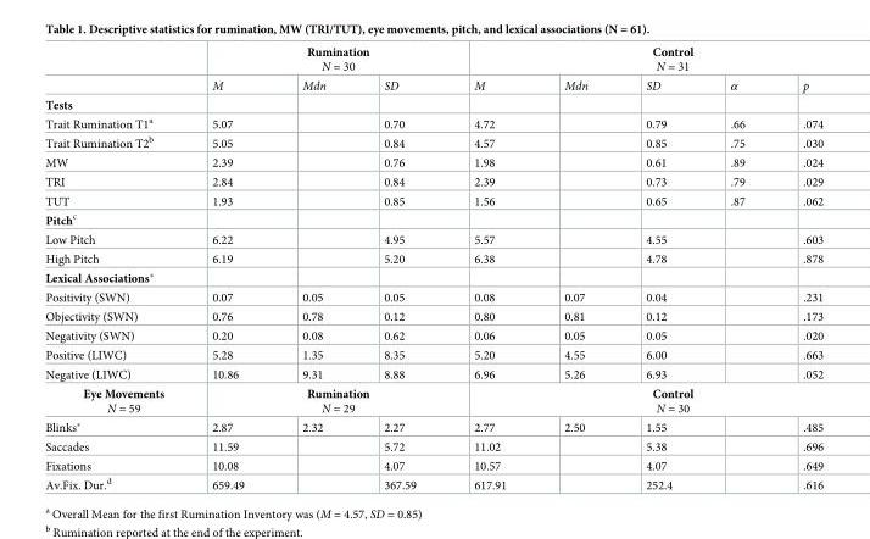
<table><thead><tr><td rowspan="2"></td><td colspan="3">Rumination N = 30</td><td colspan="5">Control N = 31</td></tr><tr><td>M</td><td>Mdn</td><td>SD</td><td>M</td><td>Mdn</td><td>SD</td><td>α</td><td>p</td></tr></thead><tbody><tr><td colspan="9">Tests</td></tr><tr><td>Trait Rumination T1<sup>a</sup></td><td>5.07</td><td></td><td>0.70</td><td>4.72</td><td></td><td>0.79</td><td>.66</td><td>.074</td></tr><tr><td>Trait Rumination T2<sup>b</sup></td><td>5.05</td><td></td><td>0.84</td><td>4.57</td><td></td><td>0.85</td><td>.75</td><td>.030</td></tr><tr><td>MW</td><td>2.39</td><td></td><td>0.76</td><td>1.98</td><td></td><td>0.61</td><td>.89</td><td>.024</td></tr><tr><td>TRI</td><td>2.84</td><td></td><td>0.84</td><td>2.39</td><td></td><td>0.73</td><td>.79</td><td>.029</td></tr><tr><td>TUT</td><td>1.93</td><td></td><td>0.85</td><td>1.56</td><td></td><td>0.65</td><td>.87</td><td>.062</td></tr><tr><td colspan="9">Pitch<sup>c</sup></td></tr><tr><td>Low Pitch</td><td>6.22</td><td></td><td>4.95</td><td>5.57</td><td></td><td>4.55</td><td></td><td>.603</td></tr><tr><td>High Pitch</td><td>6.19</td><td></td><td>5.20</td><td>6.38</td><td></td><td>4.78</td><td></td><td>.878</td></tr><tr><td colspan="9">Lexical Associations*</td></tr><tr><td>Positivity (SWN)</td><td>0.07</td><td>0.05</td><td>0.05</td><td>0.08</td><td>0.07</td><td>0.04</td><td></td><td>.231</td></tr><tr><td>Objectivity (SWN)</td><td>0.76</td><td>0.78</td><td>0.12</td><td>0.80</td><td>0.81</td><td>0.12</td><td></td><td>.173</td></tr><tr><td>Negativity (SWN)</td><td>0.20</td><td>0.08</td><td>0.62</td><td>0.06</td><td>0.05</td><td>0.05</td><td></td><td>.020</td></tr><tr><td>Positive (LIWC)</td><td>5.28</td><td>1.35</td><td>8.35</td><td>5.20</td><td>4.55</td><td>6.00</td><td></td><td>.663</td></tr><tr><td>Negative (LIWC)</td><td>10.86</td><td>9.31</td><td>8.88</td><td>6.96</td><td>5.26</td><td>6.93</td><td></td><td>.052</td></tr><tr><td>Eye Movements N = 59</td><td colspan="3">Rumination N = 29</td><td colspan="5">Control N = 30</td></tr><tr><td>Blinks*</td><td>2.87</td><td>2.32</td><td>2.27</td><td>2.77</td><td>2.50</td><td>1.55</td><td></td><td>.485</td></tr><tr><td>Saccades</td><td>11.59</td><td></td><td>5.72</td><td>11.02</td><td></td><td>5.38</td><td></td><td>.696</td></tr><tr><td>Fixations</td><td>10.08</td><td></td><td>4.07</td><td>10.57</td><td></td><td>4.07</td><td></td><td>.649</td></tr><tr><td>Av.Fix. Dur.<sup>d</sup></td><td>659.49</td><td></td><td>367.59</td><td>617.91</td><td></td><td>252.4</td><td></td><td>.616</td></tr></tbody></table>